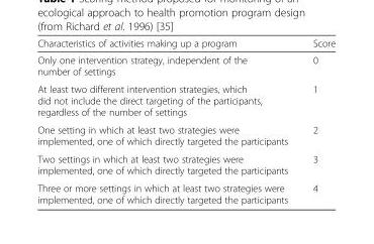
<table><thead><tr><td>Characteristics of activities making up a program</td><td>Score</td></tr></thead><tbody><tr><td>Only one intervention strategy, independent of the number of settings</td><td>0</td></tr><tr><td>At least two different intervention strategies, which did not include the direct targeting of the participants, regardless of the number of settings</td><td>1</td></tr><tr><td>One setting in which at least two strategies were implemented, one of which directly targeted the participants</td><td>2</td></tr><tr><td>Two settings in which at least two strategies were implemented, one of which directly targeted the participants</td><td>3</td></tr><tr><td>Three or more settings in which at least two strategies were implemented, one of which directly targeted the participants</td><td>4</td></tr></tbody></table>